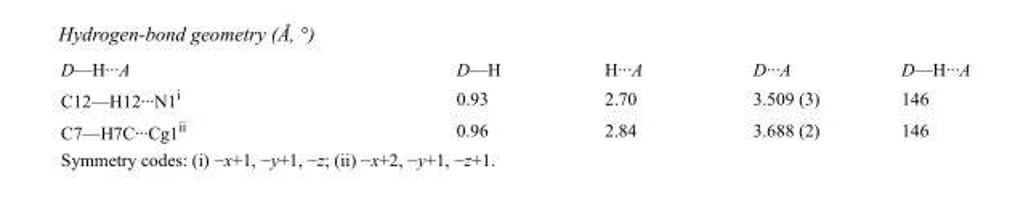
<table><tbody><tr><td>D—H···A</td><td>D—H</td><td>H···A</td><td>D···A</td><td>D—H···A</td></tr><tr><td>C12—H12···N1<sup>i</sup></td><td>0.93</td><td>2.70</td><td>3.509 (3)</td><td>146</td></tr><tr><td>C7—H7C···Cg1<sup>ii</sup></td><td>0.96</td><td>2.84</td><td>3.688 (2)</td><td>146</td></tr></tbody></table>